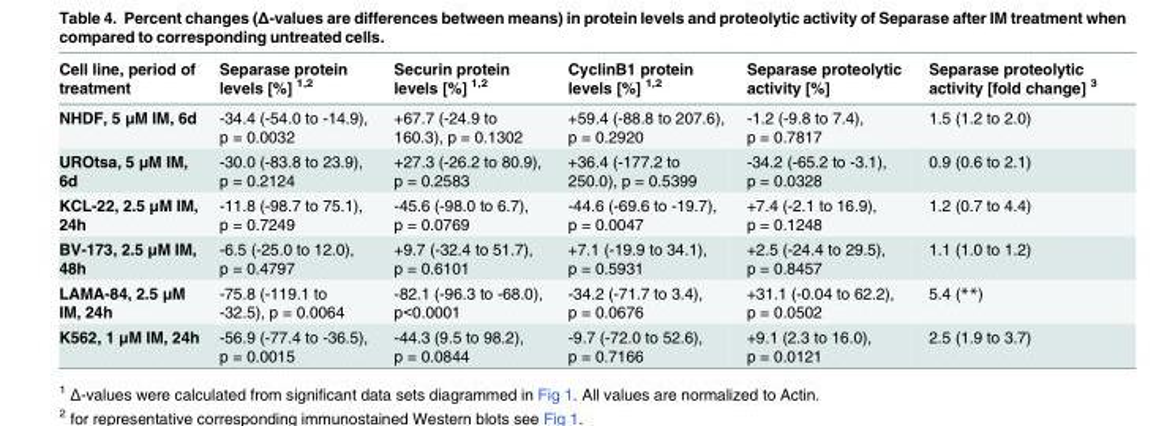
<table><thead><tr><td>Cell line, period of treatment</td><td>Separase protein levels [%] <sup>1,2</sup></td><td>Securin protein levels [%] <sup>1,2</sup></td><td>CyclinB1 protein levels [%] <sup>1,2</sup></td><td>Separase proteolytic activity [%]</td><td>Separase proteolytic activity [fold change] <sup>3</sup></td></tr></thead><tbody><tr><td>NHDF, 5 μM IM, 6d</td><td>-34.4 (-54.0 to -14.9), p = 0.0032</td><td>+67.7 (-24.9 to 160.3), p = 0.1302</td><td>+59.4 (-88.8 to 207.6), p = 0.2920</td><td>-1.2 (-9.8 to 7.4), p = 0.7817</td><td>1.5 (1.2 to 2.0)</td></tr><tr><td>UROtsa, 5 μM IM, 6d</td><td>-30.0 (-83.8 to 23.9), p = 0.2124</td><td>+27.3 (-26.2 to 80.9), p = 0.2583</td><td>+36.4 (-177.2 to 250.0), p = 0.5399</td><td>-34.2 (-65.2 to -3.1), p = 0.0328</td><td>0.9 (0.6 to 2.1)</td></tr><tr><td>KCL-22, 2.5 μM IM, 24h</td><td>-11.8 (-98.7 to 75.1), p = 0.7249</td><td>-45.6 (-98.0 to 6.7), p = 0.0769</td><td>-44.6 (-69.6 to -19.7), p = 0.0047</td><td>+7.4 (-2.1 to 16.9), p = 0.1248</td><td>1.2 (0.7 to 4.4)</td></tr><tr><td>BV-173, 2.5 μM IM, 48h</td><td>-6.5 (-25.0 to 12.0), p = 0.4797</td><td>+9.7 (-32.4 to 51.7), p = 0.6101</td><td>+7.1 (-19.9 to 34.1), p = 0.5931</td><td>+2.5 (-24.4 to 29.5), p = 0.8457</td><td>1.1 (1.0 to 1.2)</td></tr><tr><td>LAMA-84, 2.5 μM IM, 24h</td><td>-75.8 (-119.1 to -32.5), p = 0.0064</td><td>-82.1 (-96.3 to -68.0), p&lt;0.0001</td><td>-34.2 (-71.7 to 3.4), p = 0.0676</td><td>+31.1 (-0.04 to 62.2), p = 0.0502</td><td>5.4 (**)</td></tr><tr><td>K562, 1 μM IM, 24h</td><td>-56.9 (-77.4 to -36.5), p = 0.0015</td><td>-44.3 (9.5 to 98.2), p = 0.0844</td><td>-9.7 (-72.0 to 52.6), p = 0.7166</td><td>+9.1 (2.3 to 16.0), p = 0.0121</td><td>2.5 (1.9 to 3.7)</td></tr></tbody></table>